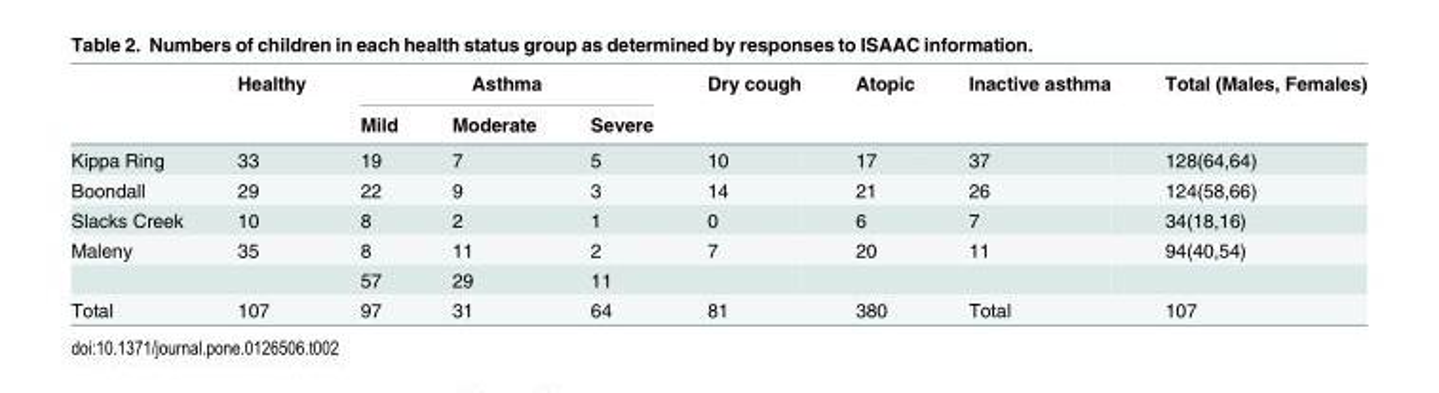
<table><thead><tr><td rowspan="2"></td><td rowspan="2">Healthy</td><td colspan="3">Asthma</td><td rowspan="2">Dry cough</td><td rowspan="2">Atopic</td><td rowspan="2">Inactive asthma</td><td rowspan="2">Total (Males, Females)</td></tr><tr><td>Mild</td><td>Moderate</td><td>Severe</td></tr></thead><tbody><tr><td>Kippa Ring</td><td>33</td><td>19</td><td>7</td><td>5</td><td>10</td><td>17</td><td>37</td><td>128(64,64)</td></tr><tr><td>Boondall</td><td>29</td><td>22</td><td>9</td><td>3</td><td>14</td><td>21</td><td>26</td><td>124(58,66)</td></tr><tr><td>Slacks Creek</td><td>10</td><td>8</td><td>2</td><td>1</td><td>0</td><td>6</td><td>7</td><td>34(18,16)</td></tr><tr><td rowspan="2">Maleny</td><td>35</td><td>8</td><td>11</td><td>2</td><td>7</td><td>20</td><td>11</td><td>94(40,54)</td></tr><tr><td></td><td>57</td><td>29</td><td>11</td><td></td><td></td><td></td><td></td></tr><tr><td>Total</td><td>107</td><td>97</td><td>31</td><td>64</td><td>81</td><td>380</td><td>Total</td><td>107</td></tr></tbody></table>